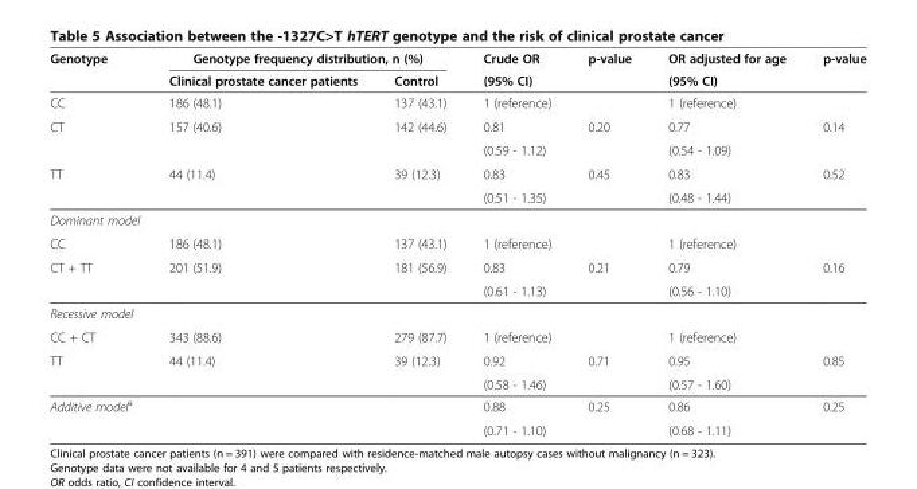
<table><thead><tr><td rowspan="2">Genotype</td><td colspan="2">Genotype frequency distribution, n (%)</td><td rowspan="2">Crude OR (95% CI)</td><td rowspan="2">p-value</td><td rowspan="2">OR adjusted for age (95% CI)</td><td rowspan="2">p-value</td></tr><tr><td>Clinical prostate cancer patients</td><td>Control</td></tr></thead><tbody><tr><td>CC</td><td>186 (48.1)</td><td>137 (43.1)</td><td>1 (reference)</td><td></td><td>1 (reference)</td><td></td></tr><tr><td rowspan="2">CT</td><td>157 (40.6)</td><td>142 (44.6)</td><td>0.81</td><td>0.20</td><td>0.77</td><td>0.14</td></tr><tr><td></td><td></td><td>(0.59 - 1.12)</td><td></td><td>(0.54 - 1.09)</td><td></td></tr><tr><td rowspan="2">TT</td><td>44 (11.4)</td><td>39 (12.3)</td><td>0.83</td><td>0.45</td><td>0.83</td><td>0.52</td></tr><tr><td></td><td></td><td>(0.51 - 1.35)</td><td></td><td>(0.48 - 1.44)</td><td></td></tr><tr><td colspan="7">Dominant model</td></tr><tr><td>CC</td><td>186 (48.1)</td><td>137 (43.1)</td><td>1 (reference)</td><td></td><td>1 (reference)</td><td></td></tr><tr><td rowspan="2">CT + TT</td><td>201 (51.9)</td><td>181 (56.9)</td><td>0.83</td><td>0.21</td><td>0.79</td><td>0.16</td></tr><tr><td></td><td></td><td>(0.61 - 1.13)</td><td></td><td>(0.56 - 1.10)</td><td></td></tr><tr><td colspan="7">Recessive model</td></tr><tr><td>CC + CT</td><td>343 (88.6)</td><td>279 (87.7)</td><td>1 (reference)</td><td></td><td>1 (reference)</td><td></td></tr><tr><td rowspan="2">TT</td><td>44 (11.4)</td><td>39 (12.3)</td><td>0.92</td><td>0.71</td><td>0.95</td><td>0.85</td></tr><tr><td></td><td></td><td>(0.58 - 1.46)</td><td></td><td>(0.57 - 1.60)</td><td></td></tr><tr><td rowspan="2">Additive model<sup>a</sup></td><td></td><td></td><td>0.88</td><td>0.25</td><td>0.86</td><td>0.25</td></tr><tr><td></td><td></td><td>(0.71 - 1.10)</td><td></td><td>(0.68 - 1.11)</td><td></td></tr></tbody></table>